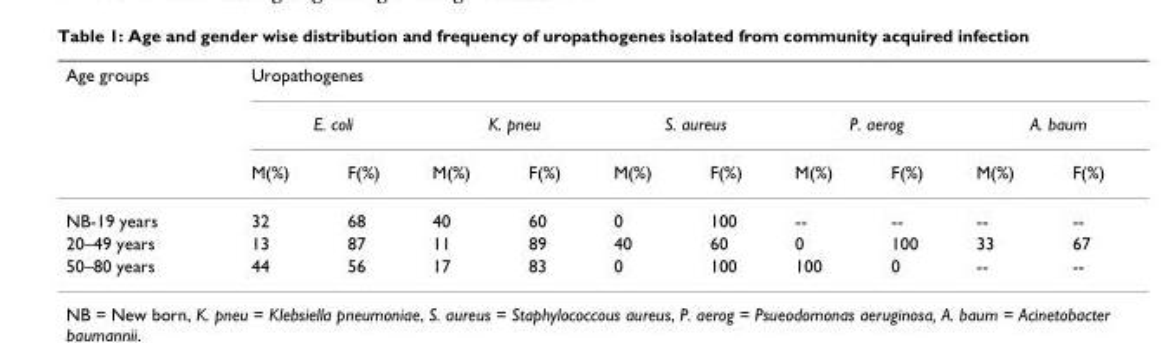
<table><thead><tr><td rowspan="3">Age groups</td><td colspan="10">Uropathogenes</td></tr><tr><td colspan="2">E. coli</td><td colspan="2">K. pneu</td><td colspan="2">S. aureus</td><td colspan="2">P. aerog</td><td colspan="2">A. baum</td></tr><tr><td>M(%)</td><td>F(%)</td><td>M(%)</td><td>F(%)</td><td>M(%)</td><td>F(%)</td><td>M(%)</td><td>F(%)</td><td>M(%)</td><td>F(%)</td></tr></thead><tbody><tr><td>NB-19 years</td><td>32</td><td>68</td><td>40</td><td>60</td><td>0</td><td>100</td><td>--</td><td>--</td><td>--</td><td>--</td></tr><tr><td>20–49 years</td><td>13</td><td>87</td><td>11</td><td>89</td><td>40</td><td>60</td><td>0</td><td>100</td><td>33</td><td>67</td></tr><tr><td>50–80 years</td><td>44</td><td>56</td><td>17</td><td>83</td><td>0</td><td>100</td><td>100</td><td>0</td><td>--</td><td>--</td></tr></tbody></table>